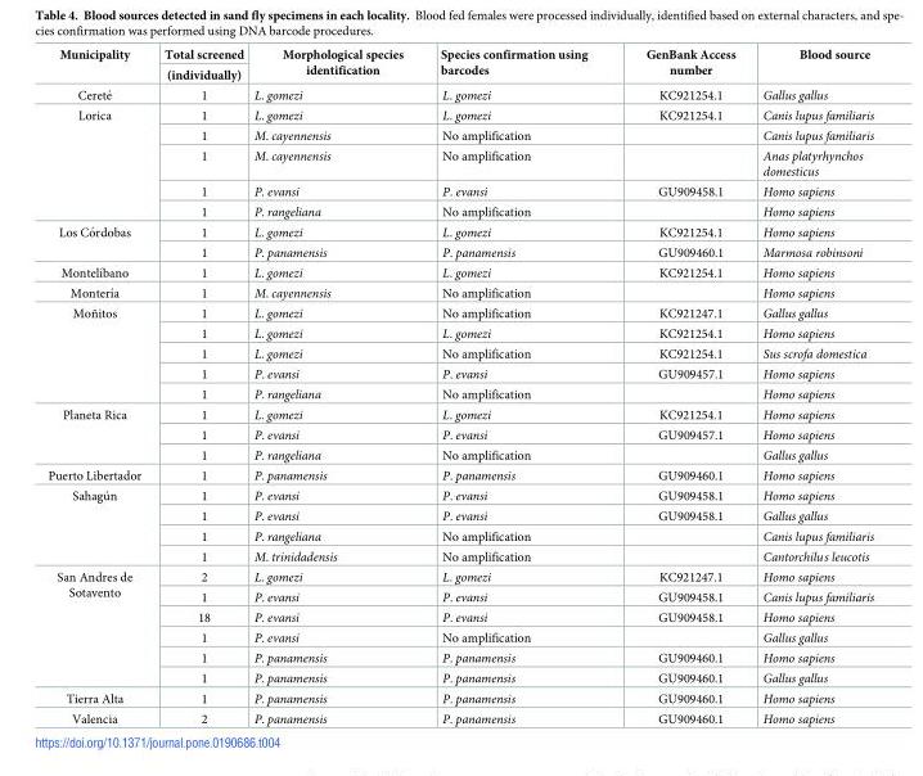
<table><thead><tr><td rowspan="2">Municipality</td><td rowspan="2">Total screened (individually)</td><td rowspan="2">Morphological species identification</td><td rowspan="2">Species confirmation using barcodes</td><td rowspan="2">GenBank Access number</td><td rowspan="2">Blood source</td></tr><tr></tr></thead><tbody><tr><td>Cerete´</td><td>1</td><td>L. gomezi</td><td>L. gomezi</td><td>KC921254.1</td><td>Gallus gallus</td></tr><tr><td rowspan="5">Lorica</td><td>1</td><td>L. gomezi</td><td>L. gomezi</td><td>KC921254.1</td><td>Canis lupus familiaris</td></tr><tr><td>1</td><td>M. cayennensis</td><td>No amplification</td><td></td><td>Canis lupus familiaris</td></tr><tr><td>1</td><td>M. cayennensis</td><td>No amplification</td><td></td><td>Anas platyrhynchos domesticus</td></tr><tr><td>1</td><td>P. evansi</td><td>P. evansi</td><td>GU909458.1</td><td>Homo sapiens</td></tr><tr><td>1</td><td>P. rangeliana</td><td>No amplification</td><td></td><td>Homo sapiens</td></tr><tr><td rowspan="2">Los Co´rdobas</td><td>1</td><td>L. gomezi</td><td>L. gomezi</td><td>KC921254.1</td><td>Homo sapiens</td></tr><tr><td>1</td><td>P. panamensis</td><td>P. panamensis</td><td>GU909460.1</td><td>Marmosa robinsoni</td></tr><tr><td>Montelı´bano</td><td>1</td><td>L. gomezi</td><td>L. gomezi</td><td>KC921254.1</td><td>Homo sapiens</td></tr><tr><td>Monterı´a</td><td>1</td><td>M. cayennensis</td><td>No amplification</td><td></td><td>Homo sapiens</td></tr><tr><td rowspan="5">Moñitos</td><td>1</td><td>L. gomezi</td><td>No amplification</td><td>KC921247.1</td><td>Gallus gallus</td></tr><tr><td>1</td><td>L. gomezi</td><td>L. gomezi</td><td>KC921254.1</td><td>Homo sapiens</td></tr><tr><td>1</td><td>L. gomezi</td><td>No amplification</td><td>KC921254.1</td><td>Sus scrofa domestica</td></tr><tr><td>1</td><td>P. evansi</td><td>P. evansi</td><td>GU909457.1</td><td>Homo sapiens</td></tr><tr><td>1</td><td>P. rangeliana</td><td>No amplification</td><td></td><td>Homo sapiens</td></tr><tr><td rowspan="3">Planeta Rica</td><td>1</td><td>L. gomezi</td><td>L. gomezi</td><td>KC921254.1</td><td>Homo sapiens</td></tr><tr><td>1</td><td>P. evansi</td><td>P. evansi</td><td>GU909457.1</td><td>Homo sapiens</td></tr><tr><td>1</td><td>P. rangeliana</td><td>No amplification</td><td></td><td>Gallus gallus</td></tr><tr><td>Puerto Libertador</td><td>1</td><td>P. panamensis</td><td>P. panamensis</td><td>GU909460.1</td><td>Homo sapiens</td></tr><tr><td rowspan="4">Sahagu´n</td><td>1</td><td>P. evansi</td><td>P. evansi</td><td>GU909458.1</td><td>Homo sapiens</td></tr><tr><td>1</td><td>P. evansi</td><td>P. evansi</td><td>GU909458.1</td><td>Gallus gallus</td></tr><tr><td>1</td><td>P. rangeliana</td><td>No amplification</td><td></td><td>Canis lupus familiaris</td></tr><tr><td>1</td><td>M. trinidadensis</td><td>No amplification</td><td></td><td>Cantorchilus leucotis</td></tr><tr><td rowspan="6">San Andres de Sotavento</td><td>2</td><td>L. gomezi</td><td>L. gomezi</td><td>KC921247.1</td><td>Homo sapiens</td></tr><tr><td>1</td><td>P. evansi</td><td>P. evansi</td><td>GU909458.1</td><td>Canis lupus familiaris</td></tr><tr><td>18</td><td>P. evansi</td><td>P. evansi</td><td>GU909458.1</td><td>Homo sapiens</td></tr><tr><td>1</td><td>P. evansi</td><td>No amplification</td><td></td><td>Gallus gallus</td></tr><tr><td>1</td><td>P. panamensis</td><td>P. panamensis</td><td>GU909460.1</td><td>Homo sapiens</td></tr><tr><td>1</td><td>P. panamensis</td><td>P. panamensis</td><td>GU909460.1</td><td>Gallus gallus</td></tr><tr><td>Tierra Alta</td><td>1</td><td>P. panamensis</td><td>P. panamensis</td><td>GU909460.1</td><td>Homo sapiens</td></tr><tr><td>Valencia</td><td>2</td><td>P. panamensis</td><td>P. panamensis</td><td>GU909460.1</td><td>Homo sapiens</td></tr></tbody></table>